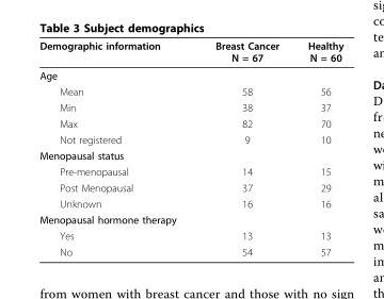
<table><thead><tr><td>Demographic information</td><td>Breast Cancer N = 67</td><td>Healthy N = 60</td></tr></thead><tbody><tr><td colspan="3">Age</td></tr><tr><td>Mean</td><td>58</td><td>56</td></tr><tr><td>Min</td><td>38</td><td>37</td></tr><tr><td>Max</td><td>82</td><td>70</td></tr><tr><td>Not registered</td><td>9</td><td>10</td></tr><tr><td colspan="3">Menopausal status</td></tr><tr><td>Pre-menopausal</td><td>14</td><td>15</td></tr><tr><td>Post Menopausal</td><td>37</td><td>29</td></tr><tr><td>Unknown</td><td>16</td><td>16</td></tr><tr><td colspan="3">Menopausal hormone therapy</td></tr><tr><td>Yes</td><td>13</td><td>13</td></tr><tr><td>No</td><td>54</td><td>57</td></tr></tbody></table>